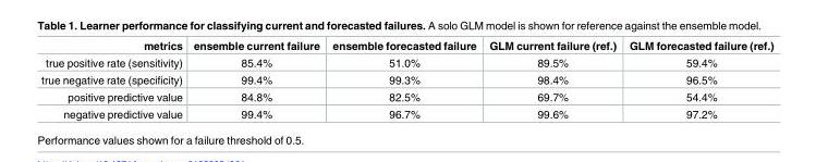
<table><thead><tr><td>metrics</td><td>ensemble current failure</td><td>ensemble forecasted failure</td><td>GLM current failure (ref.)</td><td>GLM forecasted failure (ref.)</td></tr></thead><tbody><tr><td>true positive rate (sensitivity)</td><td>85.4%</td><td>51.0%</td><td>89.5%</td><td>59.4%</td></tr><tr><td>true negative rate (specificity)</td><td>99.4%</td><td>99.3%</td><td>98.4%</td><td>96.5%</td></tr><tr><td>positive predictive value</td><td>84.8%</td><td>82.5%</td><td>69.7%</td><td>54.4%</td></tr><tr><td>negative predictive value</td><td>99.4%</td><td>96.7%</td><td>99.6%</td><td>97.2%</td></tr></tbody></table>